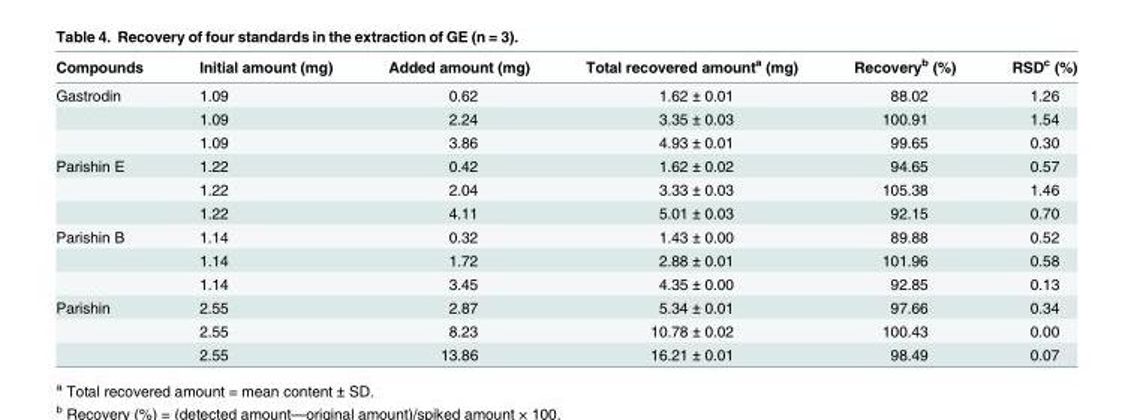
<table><thead><tr><td>Compounds</td><td>Initial amount (mg)</td><td>Added amount (mg)</td><td>Total recovered amount<sup>a</sup> (mg)</td><td>Recovery<sup>b</sup> (%)</td><td>RSD<sup>c</sup> (%)</td></tr></thead><tbody><tr><td rowspan="3">Gastrodin</td><td>1.09</td><td>0.62</td><td>1.62 ± 0.01</td><td>88.02</td><td>1.26</td></tr><tr><td>1.09</td><td>2.24</td><td>3.35 ± 0.03</td><td>100.91</td><td>1.54</td></tr><tr><td>1.09</td><td>3.86</td><td>4.93 ± 0.01</td><td>99.65</td><td>0.30</td></tr><tr><td rowspan="3">Parishin E</td><td>1.22</td><td>0.42</td><td>1.62 ± 0.02</td><td>94.65</td><td>0.57</td></tr><tr><td>1.22</td><td>2.04</td><td>3.33 ± 0.03</td><td>105.38</td><td>1.46</td></tr><tr><td>1.22</td><td>4.11</td><td>5.01 ± 0.03</td><td>92.15</td><td>0.70</td></tr><tr><td rowspan="3">Parishin B</td><td>1.14</td><td>0.32</td><td>1.43 ± 0.00</td><td>89.88</td><td>0.52</td></tr><tr><td>1.14</td><td>1.72</td><td>2.88 ± 0.01</td><td>101.96</td><td>0.58</td></tr><tr><td>1.14</td><td>3.45</td><td>4.35 ± 0.00</td><td>92.85</td><td>0.13</td></tr><tr><td rowspan="3">Parishin</td><td>2.55</td><td>2.87</td><td>5.34 ± 0.01</td><td>97.66</td><td>0.34</td></tr><tr><td>2.55</td><td>8.23</td><td>10.78 ± 0.02</td><td>100.43</td><td>0.00</td></tr><tr><td>2.55</td><td>13.86</td><td>16.21 ± 0.01</td><td>98.49</td><td>0.07</td></tr></tbody></table>